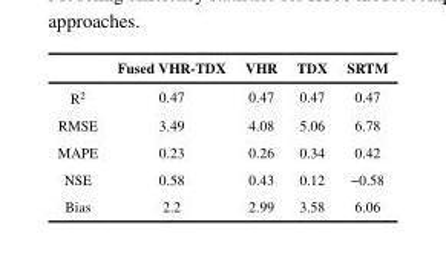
<table><thead><tr><td></td><td>Fused VHR-TDX</td><td>VHR</td><td>TDX</td><td>SRTM</td></tr></thead><tbody><tr><td>R<sup>2</sup></td><td>0.47</td><td>0.47</td><td>0.47</td><td>0.47</td></tr><tr><td>RMSE</td><td>3.49</td><td>4.08</td><td>5.06</td><td>6.78</td></tr><tr><td>MAPE</td><td>0.23</td><td>0.26</td><td>0.34</td><td>0.42</td></tr><tr><td>NSE</td><td>0.58</td><td>0.43</td><td>0.12</td><td>−0.58</td></tr><tr><td>Bias</td><td>2.2</td><td>2.99</td><td>3.58</td><td>6.06</td></tr></tbody></table>